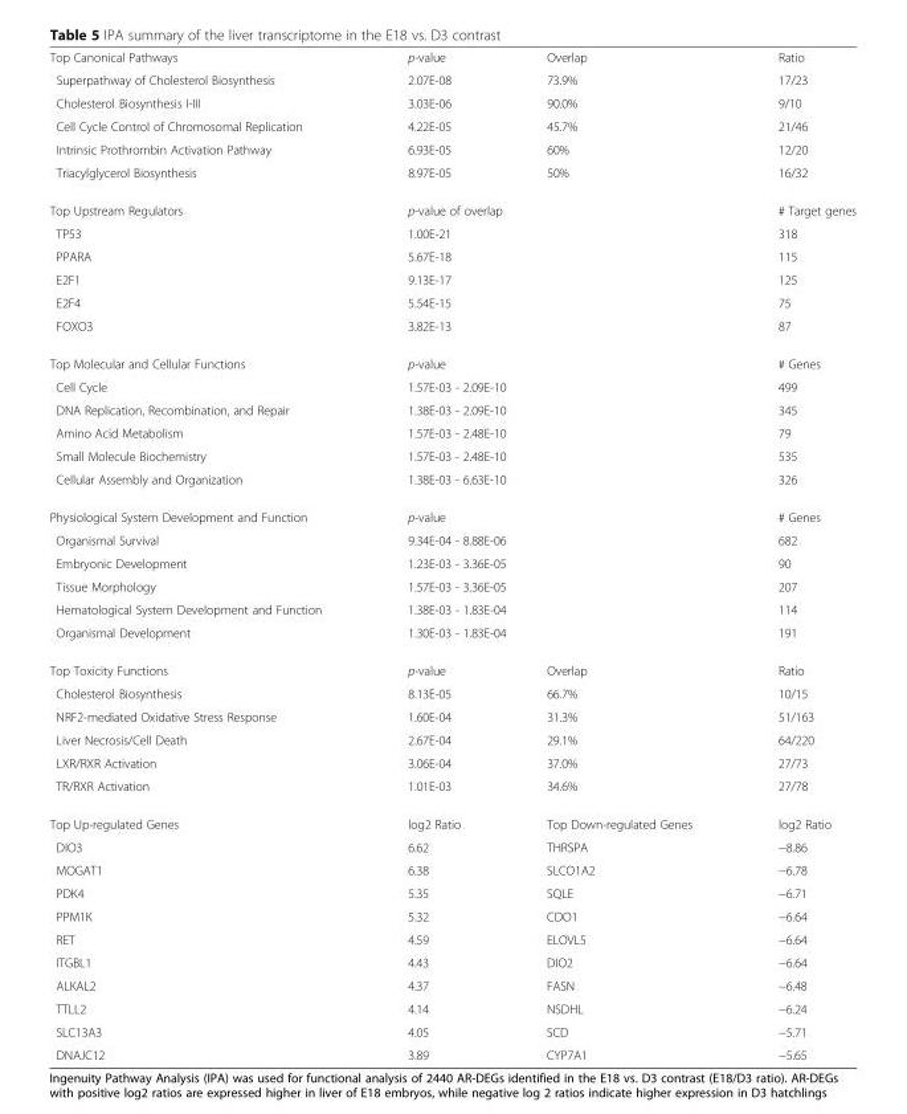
<table><tbody><tr><td>Top Canonical Pathways</td><td>p-value</td><td>Overlap</td><td>Ratio</td></tr><tr><td>Superpathway of Cholesterol Biosynthesis</td><td>2.07E-08</td><td>73.9%</td><td>17/23</td></tr><tr><td>Cholesterol Biosynthesis I-III</td><td>3.03E-06</td><td>90.0%</td><td>9/10</td></tr><tr><td>Cell Cycle Control of Chromosomal Replication</td><td>4.22E-05</td><td>45.7%</td><td>21/46</td></tr><tr><td>Intrinsic Prothrombin Activation Pathway</td><td>6.93E-05</td><td>60%</td><td>12/20</td></tr><tr><td>Triacylglycerol Biosynthesis</td><td>8.97E-05</td><td>50%</td><td>16/32</td></tr><tr><td>Top Upstream Regulators</td><td colspan="2">p-value of overlap</td><td># Target genes</td></tr><tr><td>TP53</td><td colspan="2">1.00E-21</td><td>318</td></tr><tr><td>PPARA</td><td colspan="2">5.67E-18</td><td>115</td></tr><tr><td>E2F1</td><td colspan="2">9.13E-17</td><td>125</td></tr><tr><td>E2F4</td><td colspan="2">5.54E-15</td><td>75</td></tr><tr><td>FOXO3</td><td colspan="2">3.82E-13</td><td>87</td></tr><tr><td>Top Molecular and Cellular Functions</td><td colspan="2">p-value</td><td># Genes</td></tr><tr><td>Cell Cycle</td><td colspan="2">1.57E-03 - 2.09E-10</td><td>499</td></tr><tr><td>DNA Replication, Recombination, and Repair</td><td colspan="2">1.38E-03 - 2.09E-10</td><td>345</td></tr><tr><td>Amino Acid Metabolism</td><td colspan="2">1.57E-03 - 2.48E-10</td><td>79</td></tr><tr><td>Small Molecule Biochemistry</td><td colspan="2">1.57E-03 - 2.48E-10</td><td>535</td></tr><tr><td>Cellular Assembly and Organization</td><td colspan="2">1.38E-03 - 6.63E-10</td><td>326</td></tr><tr><td>Physiological System Development and Function</td><td colspan="2">p-value</td><td># Genes</td></tr><tr><td>Organismal Survival</td><td colspan="2">9.34E-04 - 8.88E-06</td><td>682</td></tr><tr><td>Embryonic Development</td><td colspan="2">1.23E-03 - 3.36E-05</td><td>90</td></tr><tr><td>Tissue Morphology</td><td colspan="2">1.57E-03 - 3.36E-05</td><td>207</td></tr><tr><td>Hematological System Development and Function</td><td colspan="2">1.38E-03 - 1.83E-04</td><td>114</td></tr><tr><td>Organismal Development</td><td colspan="2">1.30E-03 - 1.83E-04</td><td>191</td></tr><tr><td>Top Toxicity Functions</td><td>p-value</td><td>Overlap</td><td>Ratio</td></tr><tr><td>Cholesterol Biosynthesis</td><td>8.13E-05</td><td>66.7%</td><td>10/15</td></tr><tr><td>NRF2-mediated Oxidative Stress Response</td><td>1.60E-04</td><td>31.3%</td><td>51/163</td></tr><tr><td>Liver Necrosis/Cell Death</td><td>2.67E-04</td><td>29.1%</td><td>64/220</td></tr><tr><td>LXR/RXR Activation</td><td>3.06E-04</td><td>37.0%</td><td>27/73</td></tr><tr><td>TR/RXR Activation</td><td>1.01E-03</td><td>34.6%</td><td>27/78</td></tr><tr><td>Top Up-regulated Genes</td><td>log2 Ratio</td><td>Top Down-regulated Genes</td><td>log2 Ratio</td></tr><tr><td>DIO3</td><td>6.62</td><td>THRSPA</td><td>−8.86</td></tr><tr><td>MOGAT1</td><td>6.38</td><td>SLCO1A2</td><td>−6.78</td></tr><tr><td>PDK4</td><td>5.35</td><td>SQLE</td><td>−6.71</td></tr><tr><td>PPM1K</td><td>5.32</td><td>CDO1</td><td>−6.64</td></tr><tr><td>RET</td><td>4.59</td><td>ELOVL5</td><td>−6.64</td></tr><tr><td>ITGBL1</td><td>4.43</td><td>DIO2</td><td>−6.64</td></tr><tr><td>ALKAL2</td><td>4.37</td><td>FASN</td><td>−6.48</td></tr><tr><td>TTLL2</td><td>4.14</td><td>NSDHL</td><td>−6.24</td></tr><tr><td>SLC13A3</td><td>4.05</td><td>SCD</td><td>−5.71</td></tr><tr><td>DNAJC12</td><td>3.89</td><td>CYP7A1</td><td>−5.65</td></tr></tbody></table>